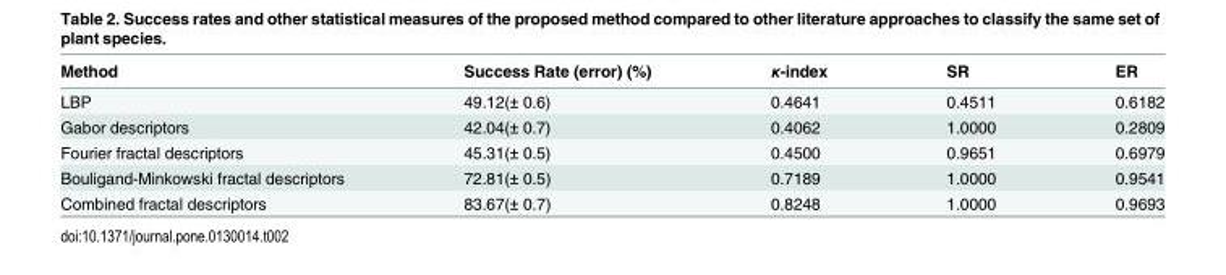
<table><thead><tr><td>Method</td><td>Success Rate (error) (%)</td><td>κ-index</td><td>SR</td><td>ER</td></tr></thead><tbody><tr><td>LBP</td><td>49.12(± 0.6)</td><td>0.4641</td><td>0.4511</td><td>0.6182</td></tr><tr><td>Gabor descriptors</td><td>42.04(± 0.7)</td><td>0.4062</td><td>1.0000</td><td>0.2809</td></tr><tr><td>Fourier fractal descriptors</td><td>45.31(± 0.5)</td><td>0.4500</td><td>0.9651</td><td>0.6979</td></tr><tr><td>Bouligand-Minkowski fractal descriptors</td><td>72.81(± 0.5)</td><td>0.7189</td><td>1.0000</td><td>0.9541</td></tr><tr><td>Combined fractal descriptors</td><td>83.67(± 0.7)</td><td>0.8248</td><td>1.0000</td><td>0.9693</td></tr></tbody></table>